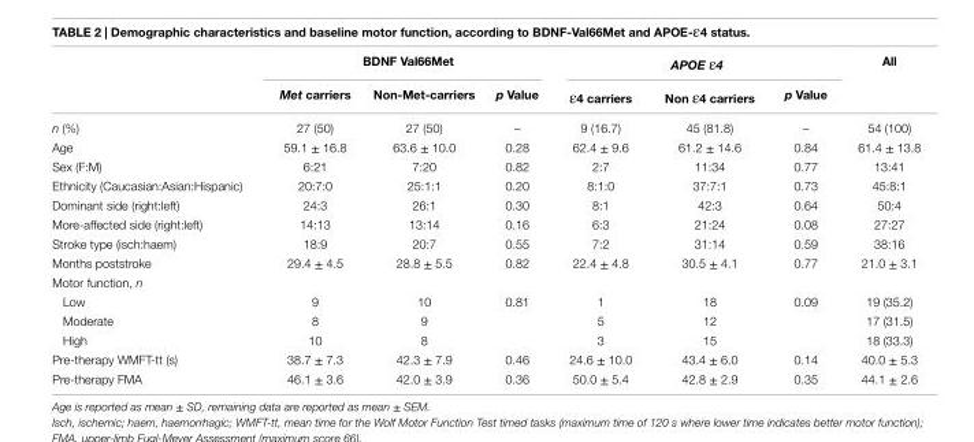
<table><thead><tr><td rowspan="2"></td><td colspan="3">BDnF Val66Met</td><td colspan="3">APOE ε4</td><td rowspan="2">all</td></tr><tr><td>Met carriers</td><td>non-Met-carriers</td><td>p Value</td><td>ε4 carriers</td><td>non ε4 carriers</td><td>p Value</td></tr></thead><tbody><tr><td>n (%)</td><td>27 (50)</td><td>27 (50)</td><td>–</td><td>9 (16.7)</td><td>45 (81.8)</td><td>–</td><td>54 (100)</td></tr><tr><td>Age</td><td>59.1 ± 16.8</td><td>63.6 ± 10.0</td><td>0.28</td><td>62.4 ± 9.6</td><td>61.2 ± 14.6</td><td>0.84</td><td>61.4 ± 13.8</td></tr><tr><td>Sex (F:M)</td><td>6:21</td><td>7:20</td><td>0.82</td><td>2:7</td><td>11:34</td><td>0.77</td><td>13:41</td></tr><tr><td>Ethnicity (Caucasian:Asian:Hispanic)</td><td>20:7:0</td><td>25:1:1</td><td>0.20</td><td>8:1:0</td><td>37:7:1</td><td>0.73</td><td>45:8:1</td></tr><tr><td>Dominant side (right:left)</td><td>24:3</td><td>26:1</td><td>0.30</td><td>8:1</td><td>42:3</td><td>0.64</td><td>50:4</td></tr><tr><td>More-affected side (right:left)</td><td>14:13</td><td>13:14</td><td>0.16</td><td>6:3</td><td>21:24</td><td>0.08</td><td>27:27</td></tr><tr><td>Stroke type (isch:haem)</td><td>18:9</td><td>20:7</td><td>0.55</td><td>7:2</td><td>31:14</td><td>0.59</td><td>38:16</td></tr><tr><td>Months poststroke</td><td>29.4 ± 4.5</td><td>28.8 ± 5.5</td><td>0.82</td><td>22.4 ± 4.8</td><td>30.5 ± 4.1</td><td>0.77</td><td>21.0 ± 3.1</td></tr><tr><td colspan="8">Motor function, n</td></tr><tr><td>Low</td><td>9</td><td>10</td><td>0.81</td><td>1</td><td>18</td><td>0.09</td><td>19 (35.2)</td></tr><tr><td>Moderate</td><td>8</td><td>9</td><td></td><td>5</td><td>12</td><td></td><td>17 (31.5)</td></tr><tr><td>High</td><td>10</td><td>8</td><td></td><td>3</td><td>15</td><td></td><td>18 (33.3)</td></tr><tr><td>Pre-therapy WMFT-tt (s)</td><td>38.7 ± 7.3</td><td>42.3 ± 7.9</td><td>0.46</td><td>24.6 ± 10.0</td><td>43.4 ± 6.0</td><td>0.14</td><td>40.0 ± 5.3</td></tr><tr><td>Pre-therapy FMA</td><td>46.1 ± 3.6</td><td>42.0 ± 3.9</td><td>0.36</td><td>50.0 ± 5.4</td><td>42.8 ± 2.9</td><td>0.35</td><td>44.1 ± 2.6</td></tr></tbody></table>